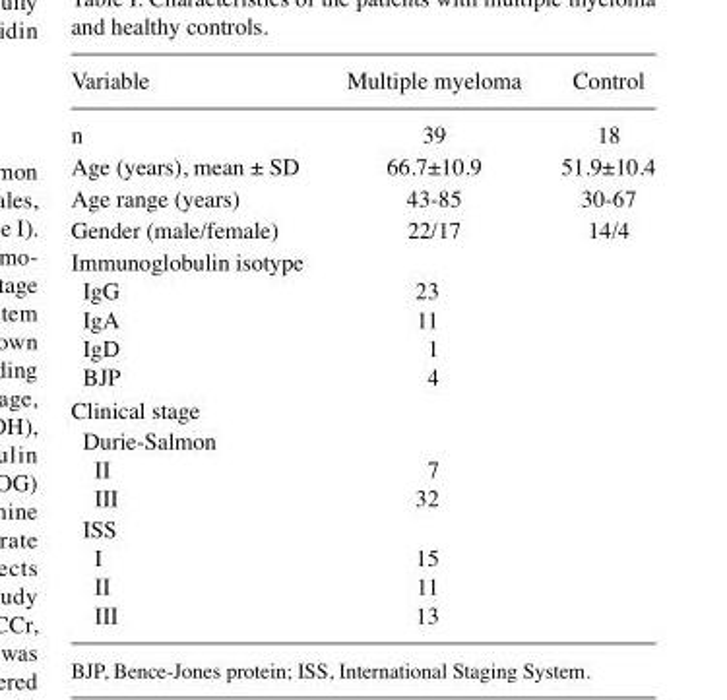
<table><thead><tr><td>Variable</td><td>Multiple myeloma</td><td>Control</td></tr></thead><tbody><tr><td>n</td><td>39</td><td>18</td></tr><tr><td>Age (years), mean ± SD</td><td>66.7±10.9</td><td>51.9±10.4</td></tr><tr><td>Age range (years)</td><td>43-85</td><td>30-67</td></tr><tr><td>Gender (male/female)</td><td>22/17</td><td>14/4</td></tr><tr><td colspan="3">Immunoglobulin isotype</td></tr><tr><td>IgG</td><td>23</td><td></td></tr><tr><td>IgA</td><td>11</td><td></td></tr><tr><td>IgD</td><td>1</td><td></td></tr><tr><td>BJP</td><td>4</td><td></td></tr><tr><td colspan="3">Clinical stage</td></tr><tr><td colspan="3">Durie-Salmon</td></tr><tr><td>II</td><td>7</td><td></td></tr><tr><td>III</td><td>32</td><td></td></tr><tr><td colspan="3">ISS</td></tr><tr><td>I</td><td>15</td><td></td></tr><tr><td>II</td><td>11</td><td></td></tr><tr><td>III</td><td>13</td><td></td></tr></tbody></table>